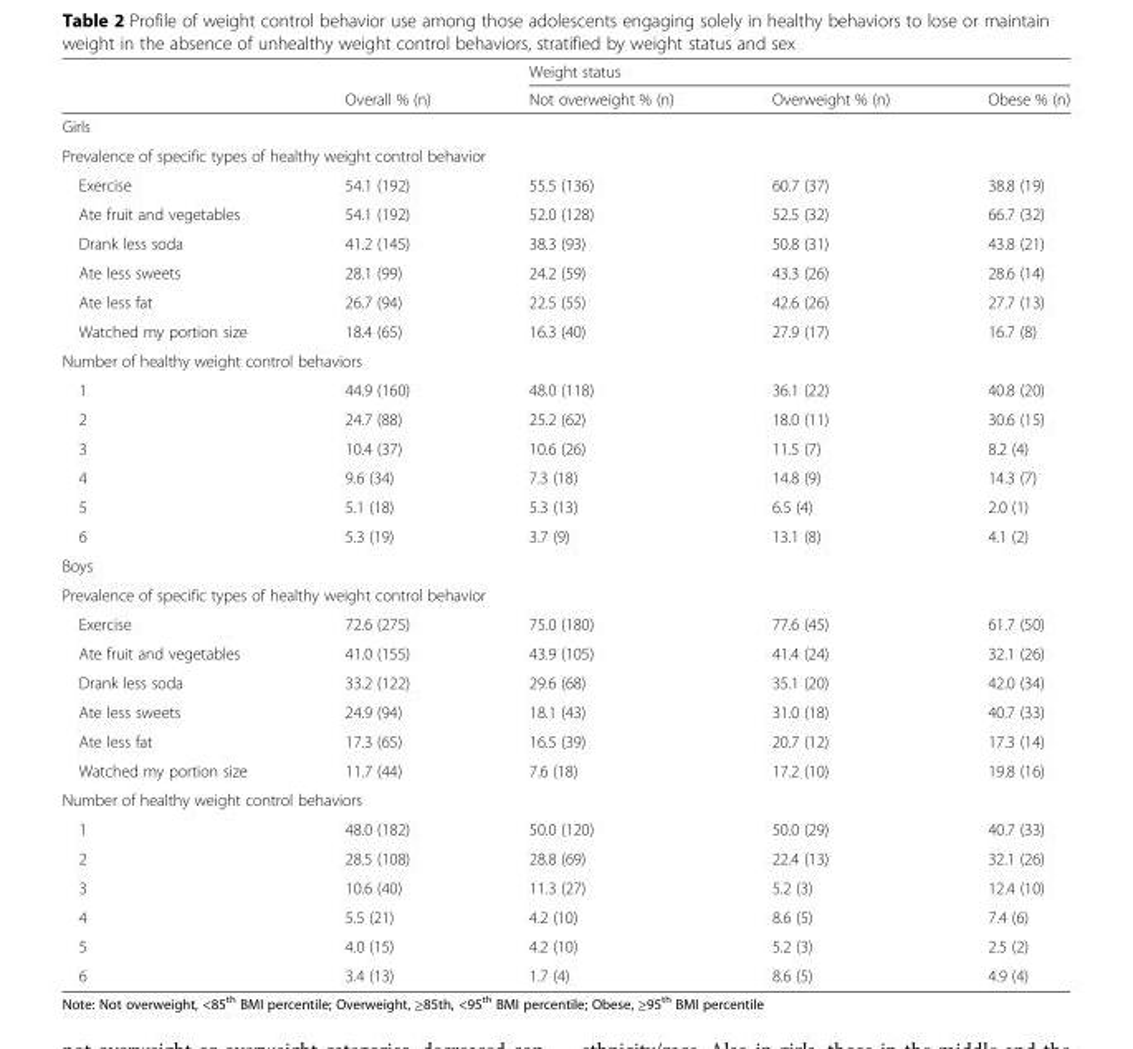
<table><thead><tr><td rowspan="2"></td><td rowspan="2">Overall % (n)</td><td colspan="3">Weight status</td></tr><tr><td>Not overweight % (n)</td><td>Overweight % (n)</td><td>Obese % (n)</td></tr></thead><tbody><tr><td colspan="5">Girls</td></tr><tr><td colspan="5">Prevalence of specific types of healthy weight control behavior</td></tr><tr><td>Exercise</td><td>54.1 (192)</td><td>55.5 (136)</td><td>60.7 (37)</td><td>38.8 (19)</td></tr><tr><td>Ate fruit and vegetables</td><td>54.1 (192)</td><td>52.0 (128)</td><td>52.5 (32)</td><td>66.7 (32)</td></tr><tr><td>Drank less soda</td><td>41.2 (145)</td><td>38.3 (93)</td><td>50.8 (31)</td><td>43.8 (21)</td></tr><tr><td>Ate less sweets</td><td>28.1 (99)</td><td>24.2 (59)</td><td>43.3 (26)</td><td>28.6 (14)</td></tr><tr><td>Ate less fat</td><td>26.7 (94)</td><td>22.5 (55)</td><td>42.6 (26)</td><td>27.7 (13)</td></tr><tr><td>Watched my portion size</td><td>18.4 (65)</td><td>16.3 (40)</td><td>27.9 (17)</td><td>16.7 (8)</td></tr><tr><td colspan="5">Number of healthy weight control behaviors</td></tr><tr><td>1</td><td>44.9 (160)</td><td>48.0 (118)</td><td>36.1 (22)</td><td>40.8 (20)</td></tr><tr><td>2</td><td>24.7 (88)</td><td>25.2 (62)</td><td>18.0 (11)</td><td>30.6 (15)</td></tr><tr><td>3</td><td>10.4 (37)</td><td>10.6 (26)</td><td>11.5 (7)</td><td>8.2 (4)</td></tr><tr><td>4</td><td>9.6 (34)</td><td>7.3 (18)</td><td>14.8 (9)</td><td>14.3 (7)</td></tr><tr><td>5</td><td>5.1 (18)</td><td>5.3 (13)</td><td>6.5 (4)</td><td>2.0 (1)</td></tr><tr><td>6</td><td>5.3 (19)</td><td>3.7 (9)</td><td>13.1 (8)</td><td>4.1 (2)</td></tr><tr><td colspan="5">Boys</td></tr><tr><td colspan="5">Prevalence of specific types of healthy weight control behavior</td></tr><tr><td>Exercise</td><td>72.6 (275)</td><td>75.0 (180)</td><td>77.6 (45)</td><td>61.7 (50)</td></tr><tr><td>Ate fruit and vegetables</td><td>41.0 (155)</td><td>43.9 (105)</td><td>41.4 (24)</td><td>32.1 (26)</td></tr><tr><td>Drank less soda</td><td>33.2 (122)</td><td>29.6 (68)</td><td>35.1 (20)</td><td>42.0 (34)</td></tr><tr><td>Ate less sweets</td><td>24.9 (94)</td><td>18.1 (43)</td><td>31.0 (18)</td><td>40.7 (33)</td></tr><tr><td>Ate less fat</td><td>17.3 (65)</td><td>16.5 (39)</td><td>20.7 (12)</td><td>17.3 (14)</td></tr><tr><td>Watched my portion size</td><td>11.7 (44)</td><td>7.6 (18)</td><td>17.2 (10)</td><td>19.8 (16)</td></tr><tr><td colspan="5">Number of healthy weight control behaviors</td></tr><tr><td>1</td><td>48.0 (182)</td><td>50.0 (120)</td><td>50.0 (29)</td><td>40.7 (33)</td></tr><tr><td>2</td><td>28.5 (108)</td><td>28.8 (69)</td><td>22.4 (13)</td><td>32.1 (26)</td></tr><tr><td>3</td><td>10.6 (40)</td><td>11.3 (27)</td><td>5.2 (3)</td><td>12.4 (10)</td></tr><tr><td>4</td><td>5.5 (21)</td><td>4.2 (10)</td><td>8.6 (5)</td><td>7.4 (6)</td></tr><tr><td>5</td><td>4.0 (15)</td><td>4.2 (10)</td><td>5.2 (3)</td><td>2.5 (2)</td></tr><tr><td>6</td><td>3.4 (13)</td><td>1.7 (4)</td><td>8.6 (5)</td><td>4.9 (4)</td></tr></tbody></table>